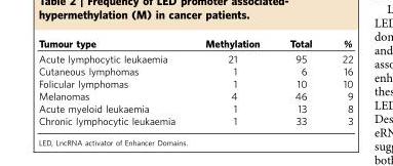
<table><thead><tr><td>Tumour type</td><td>Methylation</td><td>Total</td><td>%</td></tr></thead><tbody><tr><td>Acute lymphocytic leukaemia</td><td>21</td><td>95</td><td>22</td></tr><tr><td>Cutaneous lymphomas</td><td>1</td><td>6</td><td>16</td></tr><tr><td>Folicular lymphomas</td><td>1</td><td>10</td><td>10</td></tr><tr><td>Melanomas</td><td>4</td><td>46</td><td>9</td></tr><tr><td>Acute myeloid leukaemia</td><td>1</td><td>13</td><td>8</td></tr><tr><td>Chronic lymphocytic leukaemia</td><td>1</td><td>33</td><td>3</td></tr></tbody></table>